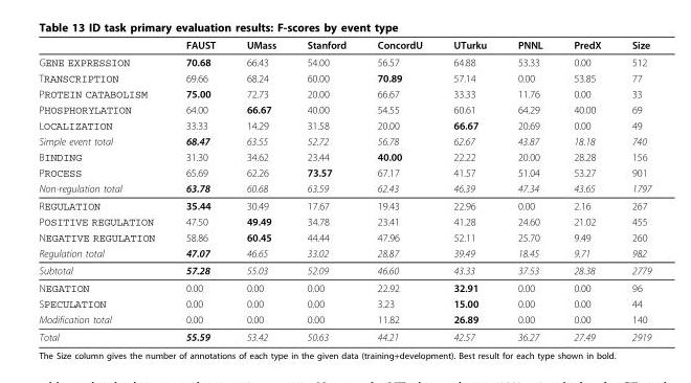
<table><thead><tr><td></td><td>FAUST</td><td>UMass</td><td>Stanford</td><td>ConcordU</td><td>UTurku</td><td>PNNL</td><td>PredX</td><td>Size</td></tr></thead><tbody><tr><td>GENE EXPRESSION</td><td>70.68</td><td>66.43</td><td>54.00</td><td>56.57</td><td>64.88</td><td>53.33</td><td>0.00</td><td>512</td></tr><tr><td>TRANSCRIPTION</td><td>69.66</td><td>68.24</td><td>60.00</td><td>70.89</td><td>57.14</td><td>0.00</td><td>53.85</td><td>77</td></tr><tr><td>PROTEIN CATABOLISM</td><td>75.00</td><td>72.73</td><td>20.00</td><td>66.67</td><td>33.33</td><td>11.76</td><td>0.00</td><td>33</td></tr><tr><td>PHOSPHORYLATION</td><td>64.00</td><td>66.67</td><td>40.00</td><td>54.55</td><td>60.61</td><td>64.29</td><td>40.00</td><td>69</td></tr><tr><td>LOCALIZATION</td><td>33.33</td><td>14.29</td><td>31.58</td><td>20.00</td><td>66.67</td><td>20.69</td><td>0.00</td><td>49</td></tr><tr><td>Simple event total</td><td>68.47</td><td>63.55</td><td>52.72</td><td>56.78</td><td>62.67</td><td>43.87</td><td>18.18</td><td>740</td></tr><tr><td>BINDING</td><td>31.30</td><td>34.62</td><td>23.44</td><td>40.00</td><td>22.22</td><td>20.00</td><td>28.28</td><td>156</td></tr><tr><td>PROCESS</td><td>65.69</td><td>62.26</td><td>73.57</td><td>67.17</td><td>41.57</td><td>51.04</td><td>53.27</td><td>901</td></tr><tr><td>Non-regulation total</td><td>63.78</td><td>60.68</td><td>63.59</td><td>62.43</td><td>46.39</td><td>47.34</td><td>43.65</td><td>1797</td></tr><tr><td>REGULATION</td><td>35.44</td><td>30.49</td><td>17.67</td><td>19.43</td><td>22.96</td><td>0.00</td><td>2.16</td><td>267</td></tr><tr><td>POSITIVE REGULATION</td><td>47.50</td><td>49.49</td><td>34.78</td><td>23.41</td><td>41.28</td><td>24.60</td><td>21.02</td><td>455</td></tr><tr><td>NEGATIVE REGULATION</td><td>58.86</td><td>60.45</td><td>44.44</td><td>47.96</td><td>52.11</td><td>25.70</td><td>9.49</td><td>260</td></tr><tr><td>Regulation total</td><td>47.07</td><td>46.65</td><td>33.02</td><td>28.87</td><td>39.49</td><td>18.45</td><td>9.71</td><td>982</td></tr><tr><td>Subtotal</td><td>57.28</td><td>55.03</td><td>52.09</td><td>46.60</td><td>43.33</td><td>37.53</td><td>28.38</td><td>2779</td></tr><tr><td>NEGATION</td><td>0.00</td><td>0.00</td><td>0.00</td><td>22.92</td><td>32.91</td><td>0.00</td><td>0.00</td><td>96</td></tr><tr><td>SPECULATION</td><td>0.00</td><td>0.00</td><td>0.00</td><td>3.23</td><td>15.00</td><td>0.00</td><td>0.00</td><td>44</td></tr><tr><td>Modification total</td><td>0.00</td><td>0.00</td><td>0.00</td><td>11.82</td><td>26.89</td><td>0.00</td><td>0.00</td><td>140</td></tr><tr><td>Total</td><td>55.59</td><td>53.42</td><td>50.63</td><td>44.21</td><td>42.57</td><td>36.27</td><td>27.49</td><td>2919</td></tr></tbody></table>